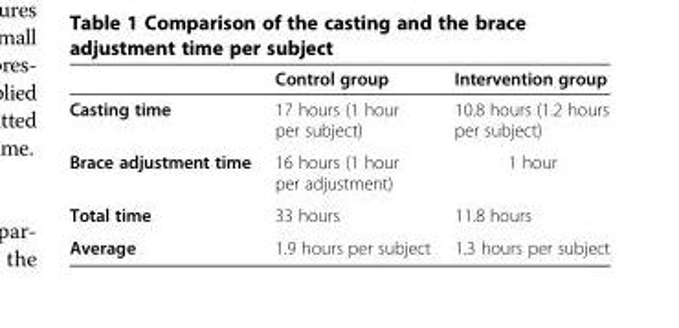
<table><thead><tr><td></td><td>Control group</td><td>Intervention group</td></tr></thead><tbody><tr><td>Casting time</td><td>17 hours (1 hour per subject)</td><td>10.8 hours (1.2 hours per subject)</td></tr><tr><td>Brace adjustment time</td><td>16 hours (1 hour per adjustment)</td><td>1 hour</td></tr><tr><td>Total time</td><td>33 hours</td><td>11.8 hours</td></tr><tr><td>Average</td><td>1.9 hours per subject</td><td>1.3 hours per subject</td></tr></tbody></table>